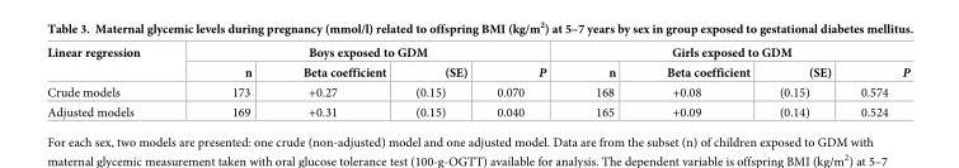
<table><thead><tr><td rowspan="2">Linear regression</td><td colspan="4">Boys exposed to GDM</td><td colspan="4">Girls exposed to GDM</td></tr><tr><td>n</td><td>Beta coefficient</td><td>(SE)</td><td>P</td><td>n</td><td>Beta coefficient</td><td>(SE)</td><td>P</td></tr></thead><tbody><tr><td>Crude models</td><td>173</td><td>+0.27</td><td>(0.15)</td><td>0.070</td><td>168</td><td>+0.08</td><td>(0.15)</td><td>0.574</td></tr><tr><td>Adjusted models</td><td>169</td><td>+0.31</td><td>(0.15)</td><td>0.040</td><td>165</td><td>+0.09</td><td>(0.14)</td><td>0.524</td></tr></tbody></table>